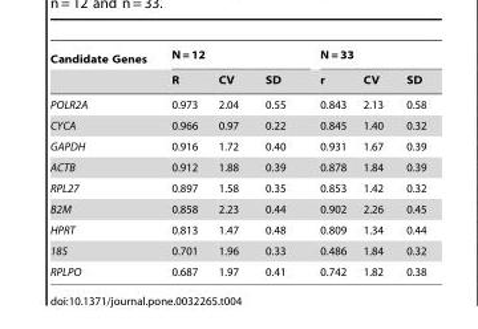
<table><thead><tr><td rowspan="2">Candidate Genes</td><td colspan="3">N = 12</td><td colspan="3">N = 33</td></tr><tr><td>R</td><td>CV</td><td>SD</td><td>r</td><td>CV</td><td>SD</td></tr></thead><tbody><tr><td>POLR2A</td><td>0.973</td><td>2.04</td><td>0.55</td><td>0.843</td><td>2.13</td><td>0.58</td></tr><tr><td>CYCA</td><td>0.966</td><td>0.97</td><td>0.22</td><td>0.845</td><td>1.40</td><td>0.32</td></tr><tr><td>GAPDH</td><td>0.916</td><td>1.72</td><td>0.40</td><td>0.931</td><td>1.67</td><td>0.39</td></tr><tr><td>ACTB</td><td>0.912</td><td>1.88</td><td>0.39</td><td>0.878</td><td>1.84</td><td>0.39</td></tr><tr><td>RPL27</td><td>0.897</td><td>1.58</td><td>0.35</td><td>0.853</td><td>1.42</td><td>0.32</td></tr><tr><td>B2M</td><td>0.858</td><td>2.23</td><td>0.44</td><td>0.902</td><td>2.26</td><td>0.45</td></tr><tr><td>HPRT</td><td>0.813</td><td>1.47</td><td>0.48</td><td>0.809</td><td>1.34</td><td>0.44</td></tr><tr><td>18S</td><td>0.701</td><td>1.96</td><td>0.33</td><td>0.486</td><td>1.84</td><td>0.32</td></tr><tr><td>RPLPO</td><td>0.687</td><td>1.97</td><td>0.41</td><td>0.742</td><td>1.82</td><td>0.38</td></tr></tbody></table>